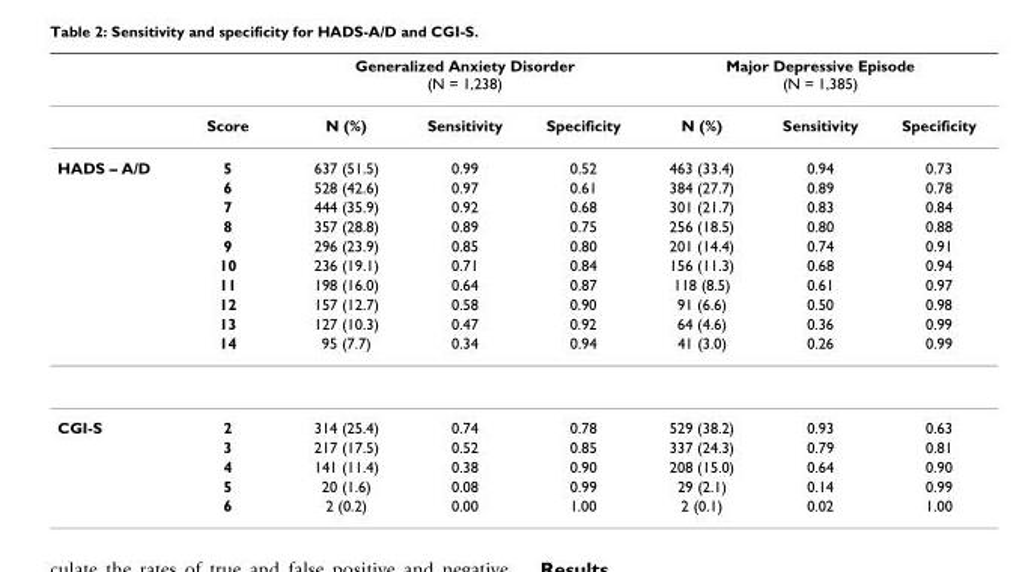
<table><thead><tr><td rowspan="2"></td><td rowspan="2">Score</td><td colspan="3">Generalized Anxiety Disorder (N = 1,238)</td><td colspan="3">Major Depressive Episode (N = 1,385)</td></tr><tr><td>N (%)</td><td>Sensitivity</td><td>Specificity</td><td>N (%)</td><td>Sensitivity</td><td>Specificity</td></tr></thead><tbody><tr><td rowspan="10">HADS – A/D</td><td>5</td><td>637 (51.5)</td><td>0.99</td><td>0.52</td><td>463 (33.4)</td><td>0.94</td><td>0.73</td></tr><tr><td>6</td><td>528 (42.6)</td><td>0.97</td><td>0.61</td><td>384 (27.7)</td><td>0.89</td><td>0.78</td></tr><tr><td>7</td><td>444 (35.9)</td><td>0.92</td><td>0.68</td><td>301 (21.7)</td><td>0.83</td><td>0.84</td></tr><tr><td>8</td><td>357 (28.8)</td><td>0.89</td><td>0.75</td><td>256 (18.5)</td><td>0.80</td><td>0.88</td></tr><tr><td>9</td><td>296 (23.9)</td><td>0.85</td><td>0.80</td><td>201 (14.4)</td><td>0.74</td><td>0.91</td></tr><tr><td>10</td><td>236 (19.1)</td><td>0.71</td><td>0.84</td><td>156 (11.3)</td><td>0.68</td><td>0.94</td></tr><tr><td>11</td><td>198 (16.0)</td><td>0.64</td><td>0.87</td><td>118 (8.5)</td><td>0.61</td><td>0.97</td></tr><tr><td>12</td><td>157 (12.7)</td><td>0.58</td><td>0.90</td><td>91 (6.6)</td><td>0.50</td><td>0.98</td></tr><tr><td>13</td><td>127 (10.3)</td><td>0.47</td><td>0.92</td><td>64 (4.6)</td><td>0.36</td><td>0.99</td></tr><tr><td>14</td><td>95 (7.7)</td><td>0.34</td><td>0.94</td><td>41 (3.0)</td><td>0.26</td><td>0.99</td></tr><tr><td rowspan="5">CGI-S</td><td>2</td><td>314 (25.4)</td><td>0.74</td><td>0.78</td><td>529 (38.2)</td><td>0.93</td><td>0.63</td></tr><tr><td>3</td><td>217 (17.5)</td><td>0.52</td><td>0.85</td><td>337 (24.3)</td><td>0.79</td><td>0.81</td></tr><tr><td>4</td><td>141 (11.4)</td><td>0.38</td><td>0.90</td><td>208 (15.0)</td><td>0.64</td><td>0.90</td></tr><tr><td>5</td><td>20 (1.6)</td><td>0.08</td><td>0.99</td><td>29 (2.1)</td><td>0.14</td><td>0.99</td></tr><tr><td>6</td><td>2 (0.2)</td><td>0.00</td><td>1.00</td><td>2 (0.1)</td><td>0.02</td><td>1.00</td></tr></tbody></table>